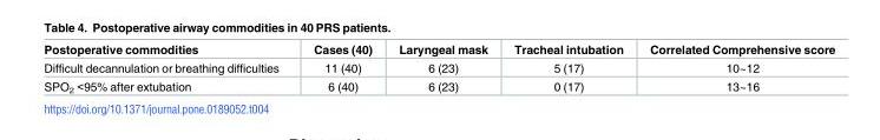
<table><thead><tr><td>Postoperative commodities</td><td>Cases (40)</td><td>Laryngeal mask</td><td>Tracheal intubation</td><td>Correlated Comprehensive score</td></tr></thead><tbody><tr><td>Difficult decannulation or breathing difficulties</td><td>11 (40)</td><td>6 (23)</td><td>5 (17)</td><td>10~12</td></tr><tr><td>SPO<sub>2</sub> &lt;95% after extubation</td><td>6 (40)</td><td>6 (23)</td><td>0 (17)</td><td>13~16</td></tr></tbody></table>